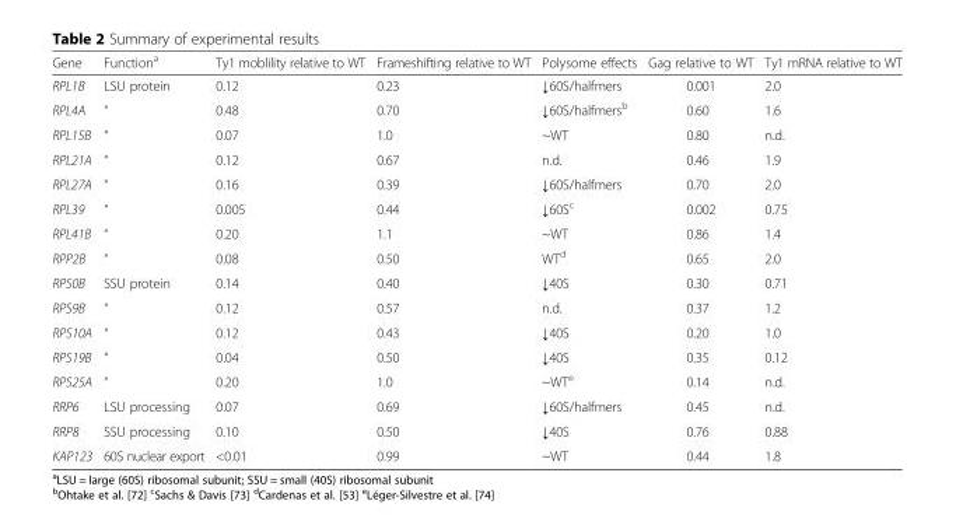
<table><thead><tr><td>Gene</td><td>Function<sup>a</sup></td><td>Ty1 moblility relative to WT</td><td>Frameshifting relative to WT</td><td>Polysome effects</td><td>Gag relative to WT</td><td>Ty1 mRNA relative to WT</td></tr></thead><tbody><tr><td>RPL1B</td><td>LSU protein</td><td>0.12</td><td>0.23</td><td>↓60S/halfmers</td><td>0.001</td><td>2.0</td></tr><tr><td>RPL4A</td><td>“</td><td>0.48</td><td>0.70</td><td>↓60S/halfmers<sup>b</sup></td><td>0.60</td><td>1.6</td></tr><tr><td>RPL15B</td><td>“</td><td>0.07</td><td>1.0</td><td>~WT</td><td>0.80</td><td>n.d.</td></tr><tr><td>RPL21A</td><td>“</td><td>0.12</td><td>0.67</td><td>n.d.</td><td>0.46</td><td>1.9</td></tr><tr><td>RPL27A</td><td>“</td><td>0.16</td><td>0.39</td><td>↓60S/halfmers</td><td>0.70</td><td>2.0</td></tr><tr><td>RPL39</td><td>“</td><td>0.005</td><td>0.44</td><td>↓60S<sup>c</sup></td><td>0.002</td><td>0.75</td></tr><tr><td>RPL41B</td><td>“</td><td>0.20</td><td>1.1</td><td>~WT</td><td>0.86</td><td>1.4</td></tr><tr><td>RPP2B</td><td>“</td><td>0.08</td><td>0.50</td><td>WT<sup>d</sup></td><td>0.65</td><td>2.0</td></tr><tr><td>RPS0B</td><td>SSU protein</td><td>0.14</td><td>0.40</td><td>↓40S</td><td>0.30</td><td>0.71</td></tr><tr><td>RPS9B</td><td>“</td><td>0.12</td><td>0.57</td><td>n.d.</td><td>0.37</td><td>1.2</td></tr><tr><td>RPS10A</td><td>“</td><td>0.12</td><td>0.43</td><td>↓40S</td><td>0.20</td><td>1.0</td></tr><tr><td>RPS19B</td><td>“</td><td>0.04</td><td>0.50</td><td>↓40S</td><td>0.35</td><td>0.12</td></tr><tr><td>RPS25A</td><td>“</td><td>0.20</td><td>1.0</td><td>~WT<sup>e</sup></td><td>0.14</td><td>n.d.</td></tr><tr><td>RRP6</td><td>LSU processing</td><td>0.07</td><td>0.69</td><td>↓60S/halfmers</td><td>0.45</td><td>n.d.</td></tr><tr><td>RRP8</td><td>SSU processing</td><td>0.10</td><td>0.50</td><td>↓40S</td><td>0.76</td><td>0.88</td></tr><tr><td>KAP123</td><td>60S nuclear export</td><td>&lt;0.01</td><td>0.99</td><td>~WT</td><td>0.44</td><td>1.8</td></tr></tbody></table>